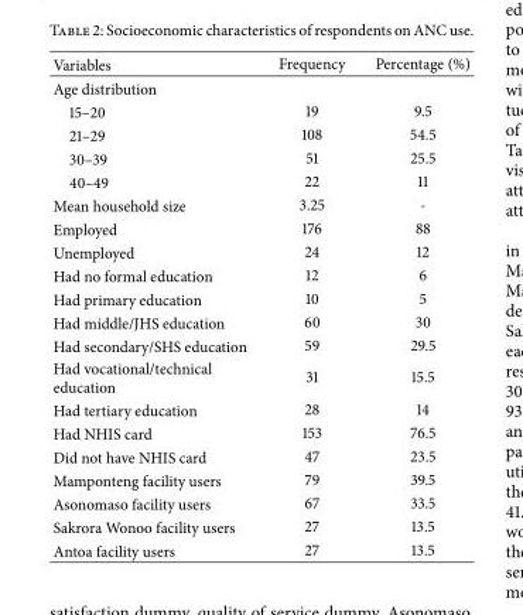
<table><thead><tr><td>Variables</td><td>Frequency</td><td>Percentage (%)</td></tr></thead><tbody><tr><td colspan="3">Age distribution</td></tr><tr><td>15–20</td><td>19</td><td>9.5</td></tr><tr><td>21–29</td><td>108</td><td>54.5</td></tr><tr><td>30–39</td><td>51</td><td>25.5</td></tr><tr><td>40–49</td><td>22</td><td>11</td></tr><tr><td>Mean household size</td><td>3.25</td><td>-</td></tr><tr><td>Employed</td><td>176</td><td>88</td></tr><tr><td>Unemployed</td><td>24</td><td>12</td></tr><tr><td>Had no formal education</td><td>12</td><td>6</td></tr><tr><td>Had primary education</td><td>10</td><td>5</td></tr><tr><td>Had middle/JHS education</td><td>60</td><td>30</td></tr><tr><td>Had secondary/SHS education</td><td>59</td><td>29.5</td></tr><tr><td>Had vocational/technical education</td><td>31</td><td>15.5</td></tr><tr><td>Had tertiary education</td><td>28</td><td>14</td></tr><tr><td>Had NHIS card</td><td>153</td><td>76.5</td></tr><tr><td>Did not have NHIS card</td><td>47</td><td>23.5</td></tr><tr><td>Mamponteng facility users</td><td>79</td><td>39.5</td></tr><tr><td>Asonomaso facility users</td><td>67</td><td>33.5</td></tr><tr><td>Sakrora Wonoo facility users</td><td>27</td><td>13.5</td></tr><tr><td>Antoa facility users</td><td>27</td><td>13.5</td></tr></tbody></table>